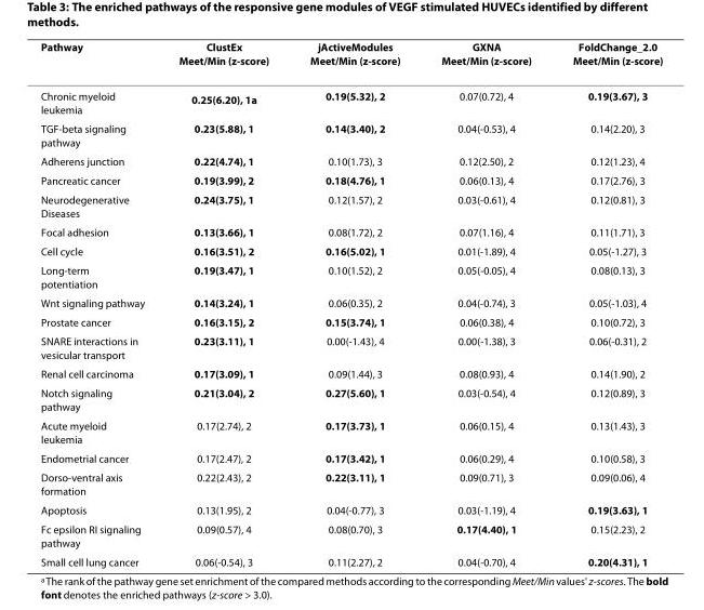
<table><thead><tr><td>Pathway</td><td>ClustEx Meet/Min (z-score)</td><td>jActiveModules Meet/Min (z-score)</td><td>GXNA Meet/Min (z-score)</td><td>FoldChange_2.0 Meet/Min (z-score)</td></tr></thead><tbody><tr><td>Chronic myeloid leukemia</td><td>0.25(6.20), 1<sup>a</sup></td><td>0.19(5.32), 2</td><td>0.07(0.72), 4</td><td>0.19(3.67), 3</td></tr><tr><td>TGF-beta signaling pathway</td><td>0.23(5.88), 1</td><td>0.14(3.40), 2</td><td>0.04(-0.53), 4</td><td>0.14(2.20), 3</td></tr><tr><td>Adherens junction</td><td>0.22(4.74), 1</td><td>0.10(1.73), 3</td><td>0.12(2.50), 2</td><td>0.12(1.23), 4</td></tr><tr><td>Pancreatic cancer</td><td>0.19(3.99), 2</td><td>0.18(4.76), 1</td><td>0.06(0.13), 4</td><td>0.17(2.76), 3</td></tr><tr><td>Neurodegenerative Diseases</td><td>0.24(3.75), 1</td><td>0.12(1.57), 2</td><td>0.03(-0.61), 4</td><td>0.12(0.81), 3</td></tr><tr><td>Focal adhesion</td><td>0.13(3.66), 1</td><td>0.08(1.72), 2</td><td>0.07(1.16), 4</td><td>0.11(1.71), 3</td></tr><tr><td>Cell cycle</td><td>0.16(3.51), 2</td><td>0.16(5.02), 1</td><td>0.01(-1.89), 4</td><td>0.05(-1.27), 3</td></tr><tr><td>Long-term potentiation</td><td>0.19(3.47), 1</td><td>0.10(1.52), 2</td><td>0.05(-0.05), 4</td><td>0.08(0.13), 3</td></tr><tr><td>Wnt signaling pathway</td><td>0.14(3.24), 1</td><td>0.06(0.35), 2</td><td>0.04(-0.74), 3</td><td>0.05(-1.03), 4</td></tr><tr><td>Prostate cancer</td><td>0.16(3.15), 2</td><td>0.15(3.74), 1</td><td>0.06(0.38), 4</td><td>0.10(0.72), 3</td></tr><tr><td>SNARE interactions in vesicular transport</td><td>0.23(3.11), 1</td><td>0.00(-1.43), 4</td><td>0.00(-1.38), 3</td><td>0.06(-0.31), 2</td></tr><tr><td>Renal cell carcinoma</td><td>0.17(3.09), 1</td><td>0.09(1.44), 3</td><td>0.08(0.93), 4</td><td>0.14(1.90), 2</td></tr><tr><td>Notch signaling pathway</td><td>0.21(3.04), 2</td><td>0.27(5.60), 1</td><td>0.03(-0.54), 4</td><td>0.12(0.89), 3</td></tr><tr><td>Acute myeloid leukemia</td><td>0.17(2.74), 2</td><td>0.17(3.73), 1</td><td>0.06(0.15), 4</td><td>0.13(1.43), 3</td></tr><tr><td>Endometrial cancer</td><td>0.17(2.47), 2</td><td>0.17(3.42), 1</td><td>0.06(0.29), 4</td><td>0.10(0.58), 3</td></tr><tr><td>Dorso-ventral axis formation</td><td>0.22(2.43), 2</td><td>0.22(3.11), 1</td><td>0.09(0.71), 3</td><td>0.09(0.06), 4</td></tr><tr><td>Apoptosis</td><td>0.13(1.95), 2</td><td>0.04(-0.77), 3</td><td>0.03(-1.19), 4</td><td>0.19(3.63), 1</td></tr><tr><td>Fc epsilon RI signaling pathway</td><td>0.09(0.57), 4</td><td>0.08(0.70), 3</td><td>0.17(4.40), 1</td><td>0.15(2.23), 2</td></tr><tr><td>Small cell lung cancer</td><td>0.06(-0.54), 3</td><td>0.11(2.27), 2</td><td>0.04(-0.70), 4</td><td>0.20(4.31), 1</td></tr></tbody></table>